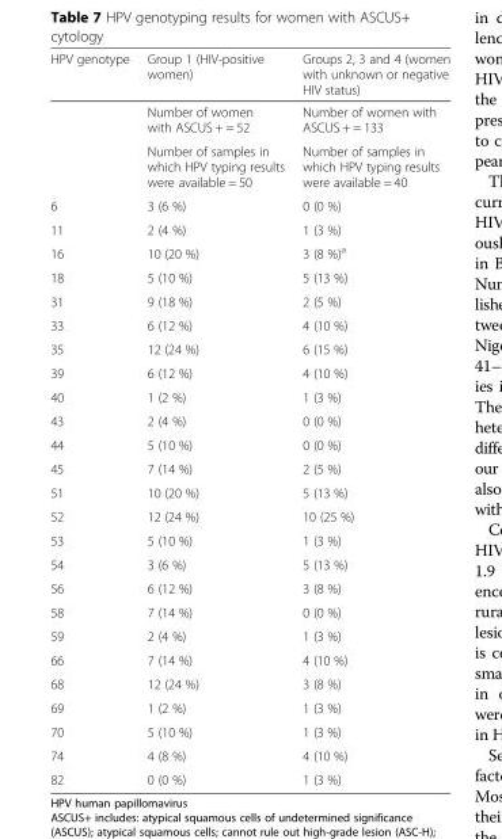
<table><thead><tr><td>HPV genotype</td><td>Group 1 (HIV-positive women)</td><td>Groups 2, 3 and 4 (women with unknown or negative HIV status)</td></tr></thead><tbody><tr><td></td><td>Number of women with ASCUS + = 52</td><td>Number of women with ASCUS + = 133</td></tr><tr><td></td><td>Number of samples in which HPV typing results were available = 50</td><td>Number of samples in which HPV typing results were available = 40</td></tr><tr><td>6</td><td>3 (6 %)</td><td>0 (0 %)</td></tr><tr><td>11</td><td>2 (4 %)</td><td>1 (3 %)</td></tr><tr><td>16</td><td>10 (20 %)</td><td>3 (8 %)<sup>a</sup></td></tr><tr><td>18</td><td>5 (10 %)</td><td>5 (13 %)</td></tr><tr><td>31</td><td>9 (18 %)</td><td>2 (5 %)</td></tr><tr><td>33</td><td>6 (12 %)</td><td>4 (10 %)</td></tr><tr><td>35</td><td>12 (24 %)</td><td>6 (15 %)</td></tr><tr><td>39</td><td>6 (12 %)</td><td>4 (10 %)</td></tr><tr><td>40</td><td>1 (2 %)</td><td>1 (3 %)</td></tr><tr><td>43</td><td>2 (4 %)</td><td>0 (0 %)</td></tr><tr><td>44</td><td>5 (10 %)</td><td>0 (0 %)</td></tr><tr><td>45</td><td>7 (14 %)</td><td>2 (5 %)</td></tr><tr><td>51</td><td>10 (20 %)</td><td>5 (13 %)</td></tr><tr><td>52</td><td>12 (24 %)</td><td>10 (25 %)</td></tr><tr><td>53</td><td>5 (10 %)</td><td>1 (3 %)</td></tr><tr><td>54</td><td>3 (6 %)</td><td>5 (13 %)</td></tr><tr><td>56</td><td>6 (12 %)</td><td>3 (8 %)</td></tr><tr><td>58</td><td>7 (14 %)</td><td>0 (0 %)</td></tr><tr><td>59</td><td>2 (4 %)</td><td>1 (3 %)</td></tr><tr><td>66</td><td>7 (14 %)</td><td>4 (10 %)</td></tr><tr><td>68</td><td>12 (24 %)</td><td>3 (8 %)</td></tr><tr><td>69</td><td>1 (2 %)</td><td>1 (3 %)</td></tr><tr><td>70</td><td>5 (10 %)</td><td>1 (3 %)</td></tr><tr><td>74</td><td>4 (8 %)</td><td>4 (10 %)</td></tr><tr><td>82</td><td>0 (0 %)</td><td>1 (3 %)</td></tr></tbody></table>